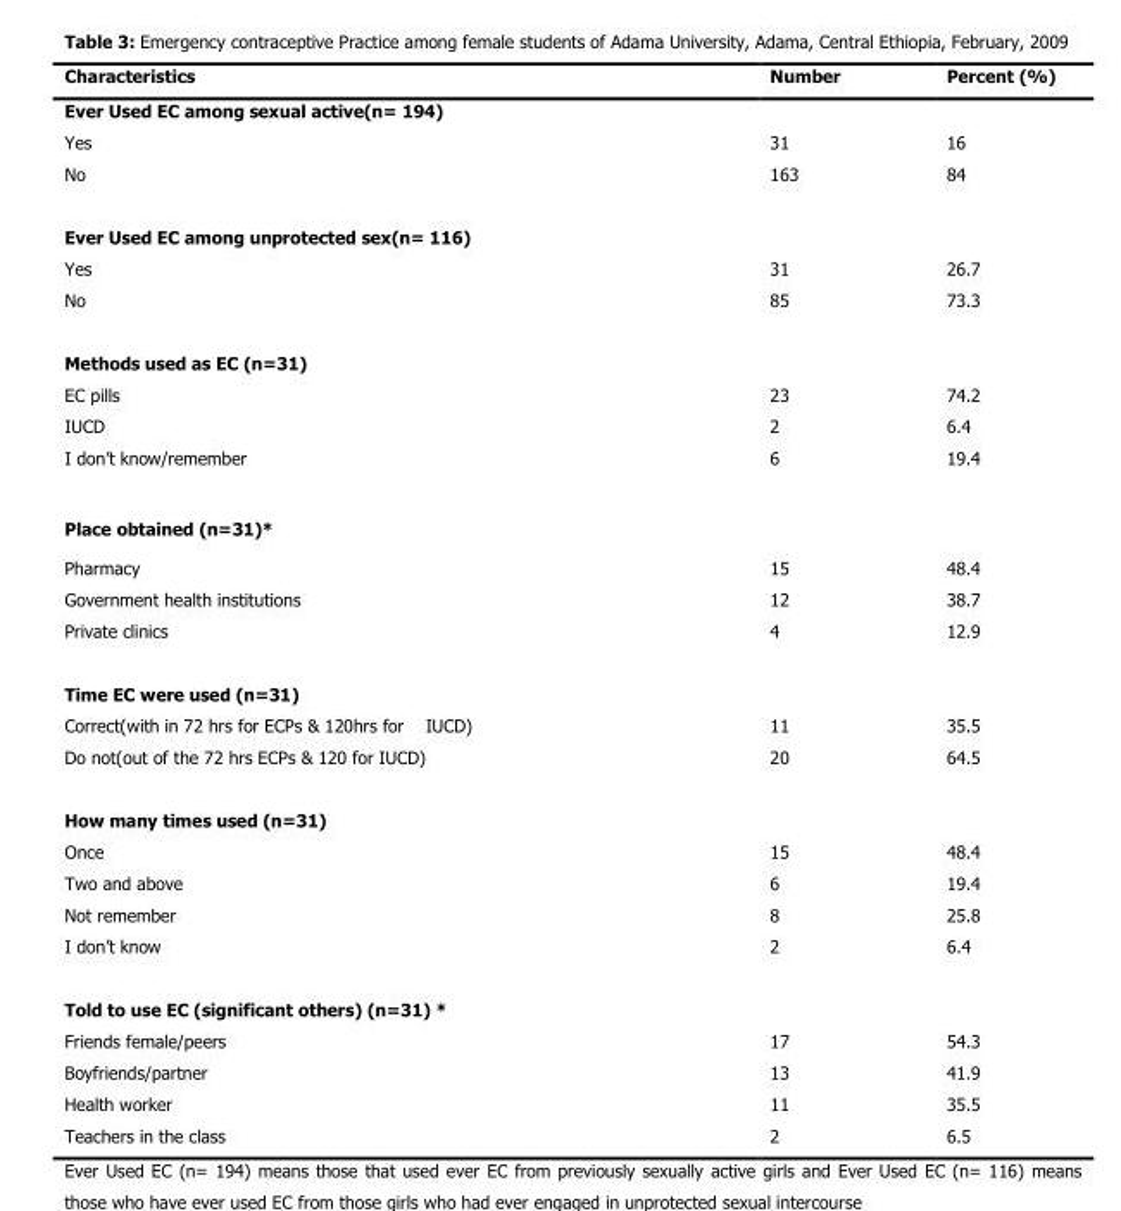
<table><thead><tr><td>Characteristics</td><td>Number</td><td>Percent (%)</td></tr></thead><tbody><tr><td colspan="3">Ever Used EC among sexual active(n= 194)</td></tr><tr><td>Yes</td><td>31</td><td>16</td></tr><tr><td>No</td><td>163</td><td>84</td></tr><tr><td colspan="3">Ever Used EC among unprotected sex(n= 116)</td></tr><tr><td>Yes</td><td>31</td><td>26.7</td></tr><tr><td>No</td><td>85</td><td>73.3</td></tr><tr><td colspan="3">Methods used as EC (n=31)</td></tr><tr><td>EC pills</td><td>23</td><td>74.2</td></tr><tr><td>IUCD</td><td>2</td><td>6.4</td></tr><tr><td>I don’t know/remember</td><td>6</td><td>19.4</td></tr><tr><td colspan="3">Place obtained (n=31)*</td></tr><tr><td>Pharmacy</td><td>15</td><td>48.4</td></tr><tr><td>Government health institutions</td><td>12</td><td>38.7</td></tr><tr><td>Private clinics</td><td>4</td><td>12.9</td></tr><tr><td colspan="3">Time EC were used (n=31)</td></tr><tr><td>Correct(with in 72 hrs for ECPs &amp; 120hrs for IUCD)</td><td>11</td><td>35.5</td></tr><tr><td>Do not(out of the 72 hrs ECPs &amp; 120 for IUCD)</td><td>20</td><td>64.5</td></tr><tr><td colspan="3">How many times used (n=31)</td></tr><tr><td>Once</td><td>15</td><td>48.4</td></tr><tr><td>Two and above</td><td>6</td><td>19.4</td></tr><tr><td>Not remember</td><td>8</td><td>25.8</td></tr><tr><td>I don’t know</td><td>2</td><td>6.4</td></tr><tr><td colspan="3">Told to use EC (significant others) (n=31) *</td></tr><tr><td>Friends female/peers</td><td>17</td><td>54.3</td></tr><tr><td>Boyfriends/partner</td><td>13</td><td>41.9</td></tr><tr><td>Health worker</td><td>11</td><td>35.5</td></tr><tr><td>Teachers in the class</td><td>2</td><td>6.5</td></tr></tbody></table>